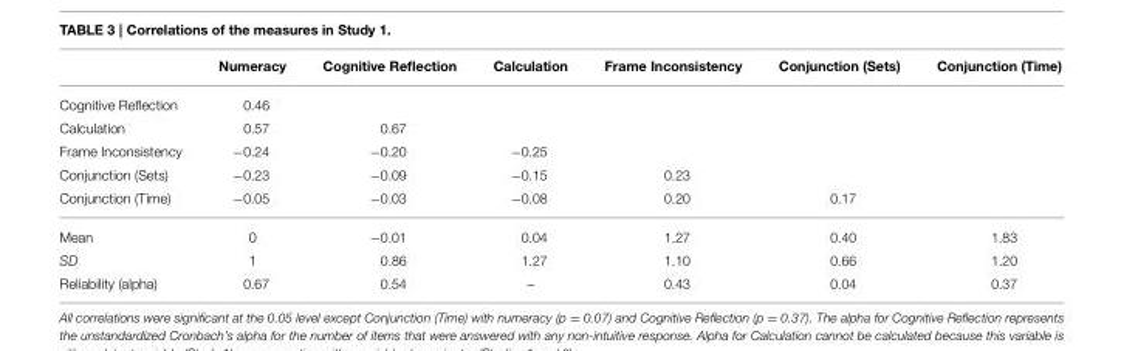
<table><thead><tr><td></td><td>Numeracy</td><td>Cognitive Reflection</td><td>Calculation</td><td>Frame Inconsistency</td><td>Conjunction (Sets)</td><td>Conjunction (Time)</td></tr></thead><tbody><tr><td>Cognitive Reflection</td><td>0.46</td><td></td><td></td><td></td><td></td><td></td></tr><tr><td>Calculation</td><td>0.57</td><td>0.67</td><td></td><td></td><td></td><td></td></tr><tr><td>Frame Inconsistency</td><td>−0.24</td><td>−0.20</td><td>−0.25</td><td></td><td></td><td></td></tr><tr><td>Conjunction (Sets)</td><td>−0.23</td><td>−0.09</td><td>−0.15</td><td>0.23</td><td></td><td></td></tr><tr><td>Conjunction (Time)</td><td>−0.05</td><td>−0.03</td><td>−0.08</td><td>0.20</td><td>0.17</td><td></td></tr><tr><td>Mean</td><td>0</td><td>−0.01</td><td>0.04</td><td>1.27</td><td>0.40</td><td>1.83</td></tr><tr><td>SD</td><td>1</td><td>0.86</td><td>1.27</td><td>1.10</td><td>0.66</td><td>1.20</td></tr><tr><td>Reliability (alpha)</td><td>0.67</td><td>0.54</td><td>–</td><td>0.43</td><td>0.04</td><td>0.37</td></tr></tbody></table>